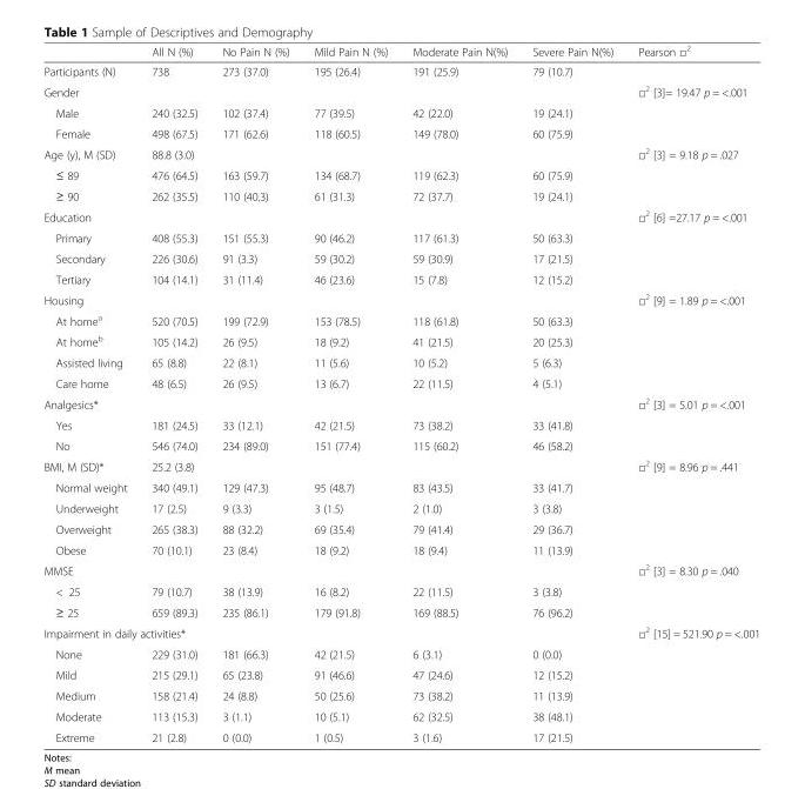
<table><thead><tr><td></td><td>All N (%)</td><td>No Pain N (%)</td><td>Mild Pain N (%)</td><td>Moderate Pain N(%)</td><td>Severe Pain N(%)</td><td>Pearson □<sup>2</sup></td></tr></thead><tbody><tr><td>Participants (N)</td><td>738</td><td>273 (37.0)</td><td>195 (26.4)</td><td>191 (25.9)</td><td>79 (10.7)</td><td></td></tr><tr><td colspan="6">Gender</td><td rowspan="3">□<sup>2</sup> [3]= 19.47 p = &lt;.001</td></tr><tr><td>Male</td><td>240 (32.5)</td><td>102 (37.4)</td><td>77 (39.5)</td><td>42 (22.0)</td><td>19 (24.1)</td></tr><tr><td>Female</td><td>498 (67.5)</td><td>171 (62.6)</td><td>118 (60.5)</td><td>149 (78.0)</td><td>60 (75.9)</td></tr><tr><td>Age (y), M (SD)</td><td>88.8 (3.0)</td><td></td><td></td><td></td><td></td><td rowspan="3">□<sup>2</sup> [3] = 9.18 p = .027</td></tr><tr><td>≤ 89</td><td>476 (64.5)</td><td>163 (59.7)</td><td>134 (68.7)</td><td>119 (62.3)</td><td>60 (75.9)</td></tr><tr><td>≥ 90</td><td>262 (35.5)</td><td>110 (40.3)</td><td>61 (31.3)</td><td>72 (37.7)</td><td>19 (24.1)</td></tr><tr><td colspan="6">Education</td><td rowspan="4">□<sup>2</sup> [6] =27.17 p = &lt;.001</td></tr><tr><td>Primary</td><td>408 (55.3)</td><td>151 (55.3)</td><td>90 (46.2)</td><td>117 (61.3)</td><td>50 (63.3)</td></tr><tr><td>Secondary</td><td>226 (30.6)</td><td>91 (3.3)</td><td>59 (30.2)</td><td>59 (30.9)</td><td>17 (21.5)</td></tr><tr><td>Tertiary</td><td>104 (14.1)</td><td>31 (11.4)</td><td>46 (23.6)</td><td>15 (7.8)</td><td>12 (15.2)</td></tr><tr><td colspan="6">Housing</td><td rowspan="5">□<sup>2</sup> [9] = 1.89 p = &lt;.001</td></tr><tr><td>At home<sup>a</sup></td><td>520 (70.5)</td><td>199 (72.9)</td><td>153 (78.5)</td><td>118 (61.8)</td><td>50 (63.3)</td></tr><tr><td>At home<sup>b</sup></td><td>105 (14.2)</td><td>26 (9.5)</td><td>18 (9.2)</td><td>41 (21.5)</td><td>20 (25.3)</td></tr><tr><td>Assisted living</td><td>65 (8.8)</td><td>22 (8.1)</td><td>11 (5.6)</td><td>10 (5.2)</td><td>5 (6.3)</td></tr><tr><td>Care home</td><td>48 (6.5)</td><td>26 (9.5)</td><td>13 (6.7)</td><td>22 (11.5)</td><td>4 (5.1)</td></tr><tr><td colspan="6">Analgesics*</td><td rowspan="3">□<sup>2</sup> [3] = 5.01 p = &lt;.001</td></tr><tr><td>Yes</td><td>181 (24.5)</td><td>33 (12.1)</td><td>42 (21.5)</td><td>73 (38.2)</td><td>33 (41.8)</td></tr><tr><td>No</td><td>546 (74.0)</td><td>234 (89.0)</td><td>151 (77.4)</td><td>115 (60.2)</td><td>46 (58.2)</td></tr><tr><td>BMI, M (SD)*</td><td>25.2 (3.8)</td><td></td><td></td><td></td><td></td><td rowspan="5">□<sup>2</sup> [9] = 8.96 p = .441</td></tr><tr><td>Normal weight</td><td>340 (49.1)</td><td>129 (47.3)</td><td>95 (48.7)</td><td>83 (43.5)</td><td>33 (41.7)</td></tr><tr><td>Underweight</td><td>17 (2.5)</td><td>9 (3.3)</td><td>3 (1.5)</td><td>2 (1.0)</td><td>3 (3.8)</td></tr><tr><td>Overweight</td><td>265 (38.3)</td><td>88 (32.2)</td><td>69 (35.4)</td><td>79 (41.4)</td><td>29 (36.7)</td></tr><tr><td>Obese</td><td>70 (10.1)</td><td>23 (8.4)</td><td>18 (9.2)</td><td>18 (9.4)</td><td>11 (13.9)</td></tr><tr><td colspan="6">MMSE</td><td rowspan="3">□<sup>2</sup> [3] = 8.30 p = .040</td></tr><tr><td>&lt; 25</td><td>79 (10.7)</td><td>38 (13.9)</td><td>16 (8.2)</td><td>22 (11.5)</td><td>3 (3.8)</td></tr><tr><td>≥ 25</td><td>659 (89.3)</td><td>235 (86.1)</td><td>179 (91.8)</td><td>169 (88.5)</td><td>76 (96.2)</td></tr><tr><td colspan="6">Impairment in daily activities*</td><td rowspan="6">□<sup>2</sup> [15] = 521.90 p = &lt;.001</td></tr><tr><td>None</td><td>229 (31.0)</td><td>181 (66.3)</td><td>42 (21.5)</td><td>6 (3.1)</td><td>0 (0.0)</td></tr><tr><td>Mild</td><td>215 (29.1)</td><td>65 (23.8)</td><td>91 (46.6)</td><td>47 (24.6)</td><td>12 (15.2)</td></tr><tr><td>Medium</td><td>158 (21.4)</td><td>24 (8.8)</td><td>50 (25.6)</td><td>73 (38.2)</td><td>11 (13.9)</td></tr><tr><td>Moderate</td><td>113 (15.3)</td><td>3 (1.1)</td><td>10 (5.1)</td><td>62 (32.5)</td><td>38 (48.1)</td></tr><tr><td>Extreme</td><td>21 (2.8)</td><td>0 (0.0)</td><td>1 (0.5)</td><td>3 (1.6)</td><td>17 (21.5)</td></tr></tbody></table>